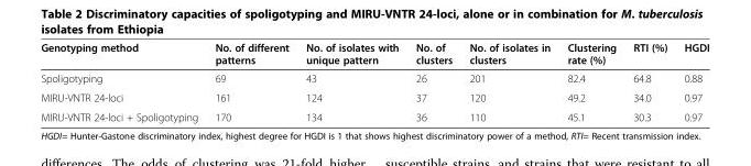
<table><thead><tr><td>Genotyping method</td><td>No. of different patterns</td><td>No. of isolates with unique pattern</td><td>No. of clusters</td><td>No. of isolates in clusters</td><td>Clustering rate (%)</td><td>RTI (%)</td><td>HGDI</td></tr></thead><tbody><tr><td>Spoligotyping</td><td>69</td><td>43</td><td>26</td><td>201</td><td>82.4</td><td>64.8</td><td>0.88</td></tr><tr><td>MIRU-VNTR 24-loci</td><td>161</td><td>124</td><td>37</td><td>120</td><td>49.2</td><td>34.0</td><td>0.97</td></tr><tr><td>MIRU-VNTR 24-loci + Spoligotyping</td><td>170</td><td>134</td><td>36</td><td>110</td><td>45.1</td><td>30.3</td><td>0.97</td></tr></tbody></table>